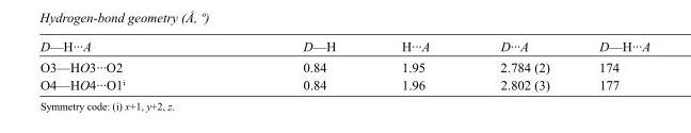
<table><tbody><tr><td>D—H···A</td><td>D—H</td><td>H···A</td><td>D···A</td><td>D—H···A</td></tr><tr><td>O3—HO3···O2</td><td>0.84</td><td>1.95</td><td>2.784 (2)</td><td>174</td></tr><tr><td>O4—HO4···O1<sup>i</sup></td><td>0.84</td><td>1.96</td><td>2.802 (3)</td><td>177</td></tr></tbody></table>